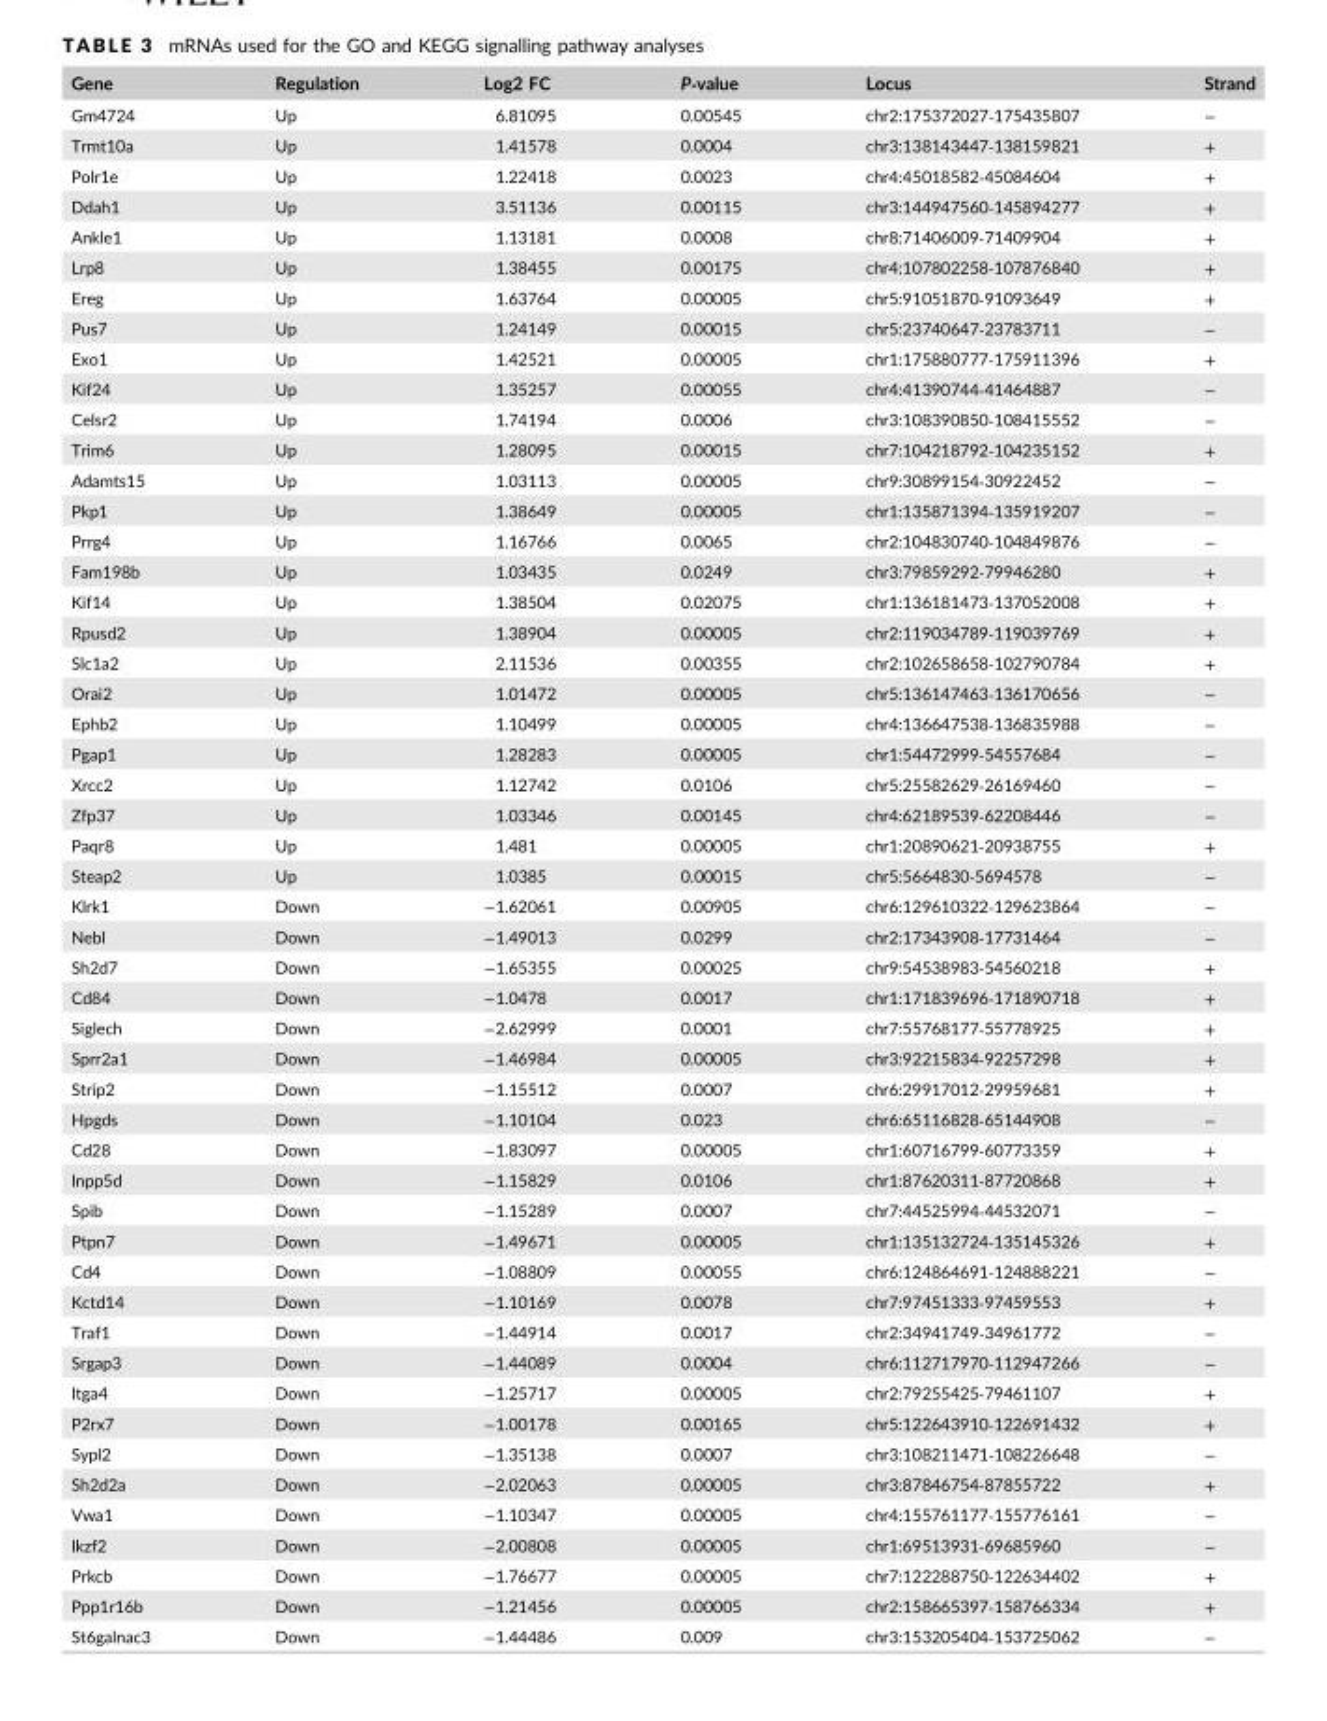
<table><thead><tr><td>Gene</td><td>Regulation</td><td>Log2 FC</td><td>P‐value</td><td>Locus</td><td>Strand</td></tr></thead><tbody><tr><td>Gm4724</td><td>Up</td><td>6.81095</td><td>0.00545</td><td>chr2:175372027‐175435807</td><td>−</td></tr><tr><td>Trmt10a</td><td>Up</td><td>1.41578</td><td>0.0004</td><td>chr3:138143447‐138159821</td><td>+</td></tr><tr><td>Polr1e</td><td>Up</td><td>1.22418</td><td>0.0023</td><td>chr4:45018582‐45084604</td><td>+</td></tr><tr><td>Ddah1</td><td>Up</td><td>3.51136</td><td>0.00115</td><td>chr3:144947560‐145894277</td><td>+</td></tr><tr><td>Ankle1</td><td>Up</td><td>1.13181</td><td>0.0008</td><td>chr8:71406009‐71409904</td><td>+</td></tr><tr><td>Lrp8</td><td>Up</td><td>1.38455</td><td>0.00175</td><td>chr4:107802258‐107876840</td><td>+</td></tr><tr><td>Ereg</td><td>Up</td><td>1.63764</td><td>0.00005</td><td>chr5:91051870‐91093649</td><td>+</td></tr><tr><td>Pus7</td><td>Up</td><td>1.24149</td><td>0.00015</td><td>chr5:23740647‐23783711</td><td>−</td></tr><tr><td>Exo1</td><td>Up</td><td>1.42521</td><td>0.00005</td><td>chr1:175880777‐175911396</td><td>+</td></tr><tr><td>Kif24</td><td>Up</td><td>1.35257</td><td>0.00055</td><td>chr4:41390744‐41464887</td><td>−</td></tr><tr><td>Celsr2</td><td>Up</td><td>1.74194</td><td>0.0006</td><td>chr3:108390850‐108415552</td><td>−</td></tr><tr><td>Trim6</td><td>Up</td><td>1.28095</td><td>0.00015</td><td>chr7:104218792‐104235152</td><td>+</td></tr><tr><td>Adamts15</td><td>Up</td><td>1.03113</td><td>0.00005</td><td>chr9:30899154‐30922452</td><td>−</td></tr><tr><td>Pkp1</td><td>Up</td><td>1.38649</td><td>0.00005</td><td>chr1:135871394‐135919207</td><td>−</td></tr><tr><td>Prrg4</td><td>Up</td><td>1.16766</td><td>0.0065</td><td>chr2:104830740‐104849876</td><td>−</td></tr><tr><td>Fam198b</td><td>Up</td><td>1.03435</td><td>0.0249</td><td>chr3:79859292‐79946280</td><td>+</td></tr><tr><td>Kif14</td><td>Up</td><td>1.38504</td><td>0.02075</td><td>chr1:136181473‐137052008</td><td>+</td></tr><tr><td>Rpusd2</td><td>Up</td><td>1.38904</td><td>0.00005</td><td>chr2:119034789‐119039769</td><td>+</td></tr><tr><td>Slc1a2</td><td>Up</td><td>2.11536</td><td>0.00355</td><td>chr2:102658658‐102790784</td><td>+</td></tr><tr><td>Orai2</td><td>Up</td><td>1.01472</td><td>0.00005</td><td>chr5:136147463‐136170656</td><td>−</td></tr><tr><td>Ephb2</td><td>Up</td><td>1.10499</td><td>0.00005</td><td>chr4:136647538‐136835988</td><td>−</td></tr><tr><td>Pgap1</td><td>Up</td><td>1.28283</td><td>0.00005</td><td>chr1:54472999‐54557684</td><td>−</td></tr><tr><td>Xrcc2</td><td>Up</td><td>1.12742</td><td>0.0106</td><td>chr5:25582629‐26169460</td><td>−</td></tr><tr><td>Zfp37</td><td>Up</td><td>1.03346</td><td>0.00145</td><td>chr4:62189539‐62208446</td><td>−</td></tr><tr><td>Paqr8</td><td>Up</td><td>1.481</td><td>0.00005</td><td>chr1:20890621‐20938755</td><td>+</td></tr><tr><td>Steap2</td><td>Up</td><td>1.0385</td><td>0.00015</td><td>chr5:5664830‐5694578</td><td>−</td></tr><tr><td>Klrk1</td><td>Down</td><td>−1.62061</td><td>0.00905</td><td>chr6:129610322‐129623864</td><td>−</td></tr><tr><td>Nebl</td><td>Down</td><td>−1.49013</td><td>0.0299</td><td>chr2:17343908‐17731464</td><td>−</td></tr><tr><td>Sh2d7</td><td>Down</td><td>−1.65355</td><td>0.00025</td><td>chr9:54538983‐54560218</td><td>+</td></tr><tr><td>Cd84</td><td>Down</td><td>−1.0478</td><td>0.0017</td><td>chr1:171839696‐171890718</td><td>+</td></tr><tr><td>Siglech</td><td>Down</td><td>−2.62999</td><td>0.0001</td><td>chr7:55768177‐55778925</td><td>+</td></tr><tr><td>Sprr2a1</td><td>Down</td><td>−1.46984</td><td>0.00005</td><td>chr3:92215834‐92257298</td><td>+</td></tr><tr><td>Strip2</td><td>Down</td><td>−1.15512</td><td>0.0007</td><td>chr6:29917012‐29959681</td><td>+</td></tr><tr><td>Hpgds</td><td>Down</td><td>−1.10104</td><td>0.023</td><td>chr6:65116828‐65144908</td><td>−</td></tr><tr><td>Cd28</td><td>Down</td><td>−1.83097</td><td>0.00005</td><td>chr1:60716799‐60773359</td><td>+</td></tr><tr><td>Inpp5d</td><td>Down</td><td>−1.15829</td><td>0.0106</td><td>chr1:87620311‐87720868</td><td>+</td></tr><tr><td>Spib</td><td>Down</td><td>−1.15289</td><td>0.0007</td><td>chr7:44525994‐44532071</td><td>−</td></tr><tr><td>Ptpn7</td><td>Down</td><td>−1.49671</td><td>0.00005</td><td>chr1:135132724‐135145326</td><td>+</td></tr><tr><td>Cd4</td><td>Down</td><td>−1.08809</td><td>0.00055</td><td>chr6:124864691‐124888221</td><td>−</td></tr><tr><td>Kctd14</td><td>Down</td><td>−1.10169</td><td>0.0078</td><td>chr7:97451333‐97459553</td><td>+</td></tr><tr><td>Traf1</td><td>Down</td><td>−1.44914</td><td>0.0017</td><td>chr2:34941749‐34961772</td><td>−</td></tr><tr><td>Srgap3</td><td>Down</td><td>−1.44089</td><td>0.0004</td><td>chr6:112717970‐112947266</td><td>−</td></tr><tr><td>Itga4</td><td>Down</td><td>−1.25717</td><td>0.00005</td><td>chr2:79255425‐79461107</td><td>+</td></tr><tr><td>P2rx7</td><td>Down</td><td>−1.00178</td><td>0.00165</td><td>chr5:122643910‐122691432</td><td>+</td></tr><tr><td>Sypl2</td><td>Down</td><td>−1.35138</td><td>0.0007</td><td>chr3:108211471‐108226648</td><td>−</td></tr><tr><td>Sh2d2a</td><td>Down</td><td>−2.02063</td><td>0.00005</td><td>chr3:87846754‐87855722</td><td>+</td></tr><tr><td>Vwa1</td><td>Down</td><td>−1.10347</td><td>0.00005</td><td>chr4:155761177‐155776161</td><td>−</td></tr><tr><td>Ikzf2</td><td>Down</td><td>−2.00808</td><td>0.00005</td><td>chr1:69513931‐69685960</td><td>−</td></tr><tr><td>Prkcb</td><td>Down</td><td>−1.76677</td><td>0.00005</td><td>chr7:122288750‐122634402</td><td>+</td></tr><tr><td>Ppp1r16b</td><td>Down</td><td>−1.21456</td><td>0.00005</td><td>chr2:158665397‐158766334</td><td>+</td></tr><tr><td>St6galnac3</td><td>Down</td><td>−1.44486</td><td>0.009</td><td>chr3:153205404‐153725062</td><td>−</td></tr></tbody></table>